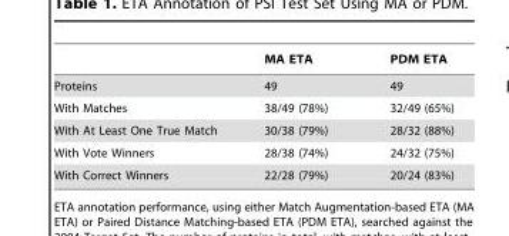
<table><thead><tr><td></td><td>MA ETA</td><td>PDM ETA</td></tr></thead><tbody><tr><td>Proteins</td><td>49</td><td>49</td></tr><tr><td>With Matches</td><td>38/49 (78%)</td><td>32/49 (65%)</td></tr><tr><td>With At Least One True Match</td><td>30/38 (79%)</td><td>28/32 (88%)</td></tr><tr><td>With Vote Winners</td><td>28/38 (74%)</td><td>24/32 (75%)</td></tr><tr><td>With Correct Winners</td><td>22/28 (79%)</td><td>20/24 (83%)</td></tr></tbody></table>